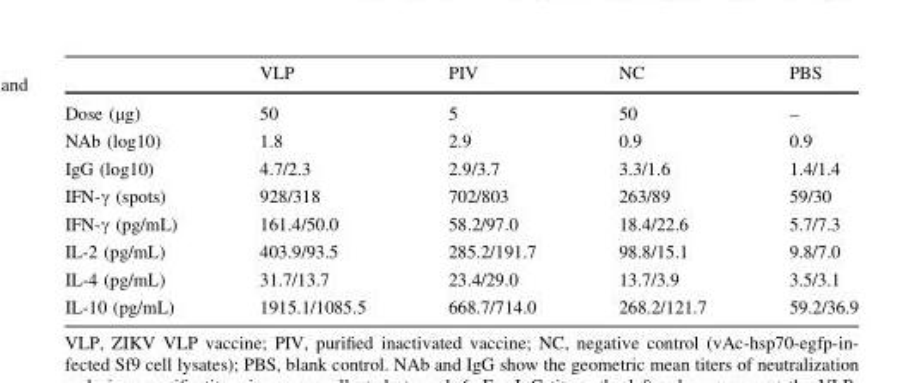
<table><thead><tr><td></td><td>VLP</td><td>PIV</td><td>NC</td><td>PBS</td></tr></thead><tbody><tr><td>Dose (μg)</td><td>50</td><td>5</td><td>50</td><td>–</td></tr><tr><td>NAb (log10)</td><td>1.8</td><td>2.9</td><td>0.9</td><td>0.9</td></tr><tr><td>IgG (log10)</td><td>4.7/2.3</td><td>2.9/3.7</td><td>3.3/1.6</td><td>1.4/1.4</td></tr><tr><td>IFN-γ (spots)</td><td>928/318</td><td>702/803</td><td>263/89</td><td>59/30</td></tr><tr><td>IFN-γ (pg/mL)</td><td>161.4/50.0</td><td>58.2/97.0</td><td>18.4/22.6</td><td>5.7/7.3</td></tr><tr><td>IL-2 (pg/mL)</td><td>403.9/93.5</td><td>285.2/191.7</td><td>98.8/15.1</td><td>9.8/7.0</td></tr><tr><td>IL-4 (pg/mL)</td><td>31.7/13.7</td><td>23.4/29.0</td><td>13.7/3.9</td><td>3.5/3.1</td></tr><tr><td>IL-10 (pg/mL)</td><td>1915.1/1085.5</td><td>668.7/714.0</td><td>268.2/121.7</td><td>59.2/36.9</td></tr></tbody></table>